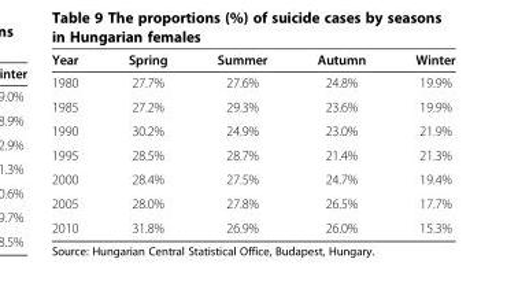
<table><thead><tr><td>Year</td><td>Spring</td><td>Summer</td><td>Autumn</td><td>Winter</td></tr></thead><tbody><tr><td>1980</td><td>27.7%</td><td>27.6%</td><td>24.8%</td><td>19.9%</td></tr><tr><td>1985</td><td>27.2%</td><td>29.3%</td><td>23.6%</td><td>19.9%</td></tr><tr><td>1990</td><td>30.2%</td><td>24.9%</td><td>23.0%</td><td>21.9%</td></tr><tr><td>1995</td><td>28.5%</td><td>28.7%</td><td>21.4%</td><td>21.3%</td></tr><tr><td>2000</td><td>28.4%</td><td>27.5%</td><td>24.7%</td><td>19.4%</td></tr><tr><td>2005</td><td>28.0%</td><td>27.8%</td><td>26.5%</td><td>17.7%</td></tr><tr><td>2010</td><td>31.8%</td><td>26.9%</td><td>26.0%</td><td>15.3%</td></tr></tbody></table>